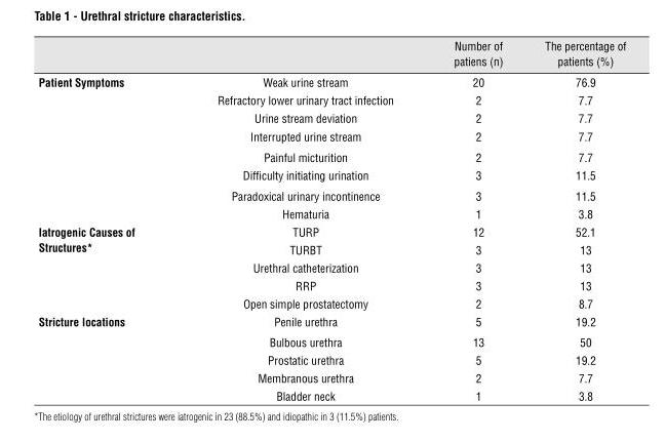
<table><thead><tr><td></td><td></td><td>Number of patiens (n)</td><td>The percentage of patients (%)</td></tr></thead><tbody><tr><td rowspan="8">patient symptoms</td><td>Weak urine stream</td><td>20</td><td>76.9</td></tr><tr><td>Refractory lower urinary tract infection</td><td>2</td><td>7.7</td></tr><tr><td>Urine stream deviation</td><td>2</td><td>7.7</td></tr><tr><td>Interrupted urine stream</td><td>2</td><td>7.7</td></tr><tr><td>Painful micturition</td><td>2</td><td>7.7</td></tr><tr><td>Difficulty initiating urination</td><td>3</td><td>11.5</td></tr><tr><td>Paradoxical urinary incontinence</td><td>3</td><td>11.5</td></tr><tr><td>Hematuria</td><td>1</td><td>3.8</td></tr><tr><td rowspan="5">Iatrogenic Causes of structures*</td><td>TURP</td><td>12</td><td>52.1</td></tr><tr><td>TURBT</td><td>3</td><td>13</td></tr><tr><td>Urethral catheterization</td><td>3</td><td>13</td></tr><tr><td>RRP</td><td>3</td><td>13</td></tr><tr><td>Open simple prostatectomy</td><td>2</td><td>8.7</td></tr><tr><td rowspan="5">stricture locations</td><td>Penile urethra</td><td>5</td><td>19.2</td></tr><tr><td>Bulbous urethra</td><td>13</td><td>50</td></tr><tr><td>Prostatic urethra</td><td>5</td><td>19.2</td></tr><tr><td>Membranous urethra</td><td>2</td><td>7.7</td></tr><tr><td>Bladder neck</td><td>1</td><td>3.8</td></tr></tbody></table>